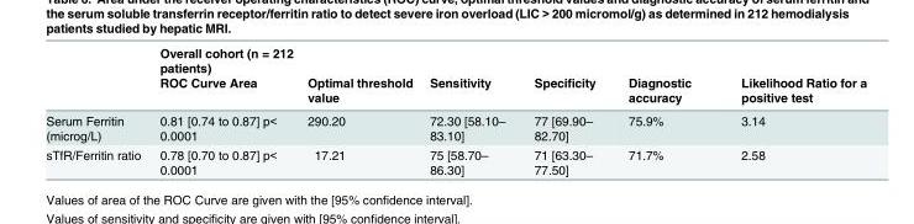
<table><thead><tr><td rowspan="2"></td><td rowspan="2">Overall cohort (n = 212 patients) ROC Curve Area</td><td rowspan="2">Optimal threshold value</td><td rowspan="2">Sensitivity</td><td rowspan="2">Specificity</td><td rowspan="2">Diagnostic accuracy</td><td rowspan="2">Likelihood Ratio for a positive test</td></tr><tr></tr></thead><tbody><tr><td>Serum Ferritin (microg/L)</td><td>0.81 [0.74 to 0.87] p&lt; 0.0001</td><td>290.20</td><td>72.30 [58.10– 83.10]</td><td>77 [69.90– 82.70]</td><td>75.9%</td><td>3.14</td></tr><tr><td>sTfR/Ferritin ratio</td><td>0.78 [0.70 to 0.87] p&lt; 0.0001</td><td>17.21</td><td>75 [58.70– 86.30]</td><td>71 [63.30– 77.50]</td><td>71.7%</td><td>2.58</td></tr></tbody></table>